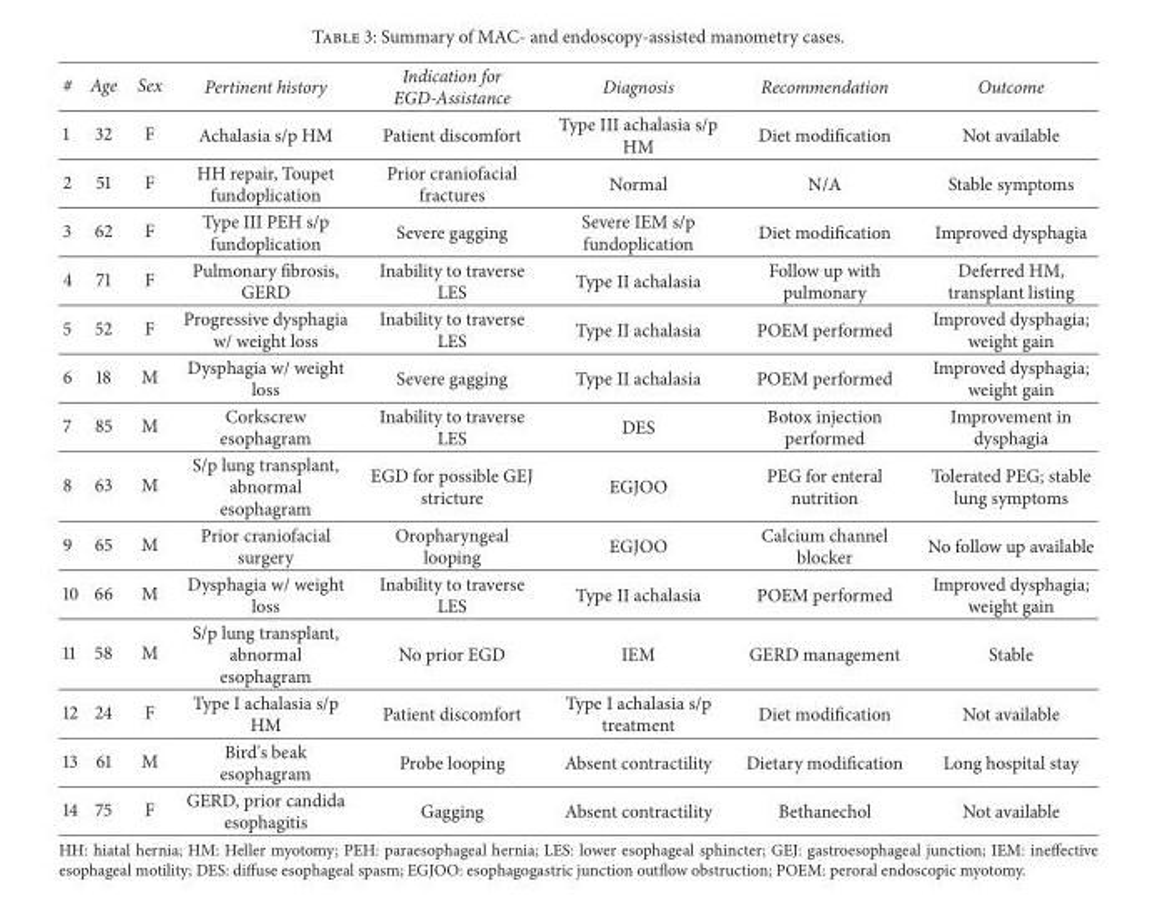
<table><thead><tr><td>#</td><td>Age</td><td>Sex</td><td>Pertinent history</td><td>Indication for EGD-Assistance</td><td>Diagnosis</td><td>Recommendation</td><td>Outcome</td></tr></thead><tbody><tr><td>1</td><td>32</td><td>F</td><td>Achalasia s/p HM</td><td>Patient discomfort</td><td>Type III achalasia s/p HM</td><td>Diet modification</td><td>Not available</td></tr><tr><td>2</td><td>51</td><td>F</td><td>HH repair, Toupet fundoplication</td><td>Prior craniofacial fractures</td><td>Normal</td><td>N/A</td><td>Stable symptoms</td></tr><tr><td>3</td><td>62</td><td>F</td><td>Type III PEH s/p fundoplication</td><td>Severe gagging</td><td>Severe IEM s/p fundoplication</td><td>Diet modification</td><td>Improved dysphagia</td></tr><tr><td>4</td><td>71</td><td>F</td><td>Pulmonary fibrosis, GERD</td><td>Inability to traverse LES</td><td>Type II achalasia</td><td>Follow up with pulmonary</td><td>Deferred HM, transplant listing</td></tr><tr><td>5</td><td>52</td><td>F</td><td>Progressive dysphagia w/ weight loss</td><td>Inability to traverse LES</td><td>Type II achalasia</td><td>POEM performed</td><td>Improved dysphagia; weight gain</td></tr><tr><td>6</td><td>18</td><td>M</td><td>Dysphagia w/ weight loss</td><td>Severe gagging</td><td>Type II achalasia</td><td>POEM performed</td><td>Improved dysphagia; weight gain</td></tr><tr><td>7</td><td>85</td><td>M</td><td>Corkscrew esophagram</td><td>Inability to traverse LES</td><td>DES</td><td>Botox injection performed</td><td>Improvement in dysphagia</td></tr><tr><td>8</td><td>63</td><td>M</td><td>S/p lung transplant, abnormal esophagram</td><td>EGD for possible GEJ stricture</td><td>EGJOO</td><td>PEG for enteral nutrition</td><td>Tolerated PEG; stable lung symptoms</td></tr><tr><td>9</td><td>65</td><td>M</td><td>Prior craniofacial surgery</td><td>Oropharyngeal looping</td><td>EGJOO</td><td>Calcium channel blocker</td><td>No follow up available</td></tr><tr><td>10</td><td>66</td><td>M</td><td>Dysphagia w/ weight loss</td><td>Inability to traverse LES</td><td>Type II achalasia</td><td>POEM performed</td><td>Improved dysphagia; weight gain</td></tr><tr><td>11</td><td>58</td><td>M</td><td>S/p lung transplant, abnormal esophagram</td><td>No prior EGD</td><td>IEM</td><td>GERD management</td><td>Stable</td></tr><tr><td>12</td><td>24</td><td>F</td><td>Type I achalasia s/p HM</td><td>Patient discomfort</td><td>Type I achalasia s/p treatment</td><td>Diet modification</td><td>Not available</td></tr><tr><td>13</td><td>61</td><td>M</td><td>Bird&#x27;s beak esophagram</td><td>Probe looping</td><td>Absent contractility</td><td>Dietary modification</td><td>Long hospital stay</td></tr><tr><td>14</td><td>75</td><td>F</td><td>GERD, prior candida esophagitis</td><td>Gagging</td><td>Absent contractility</td><td>Bethanechol</td><td>Not available</td></tr></tbody></table>